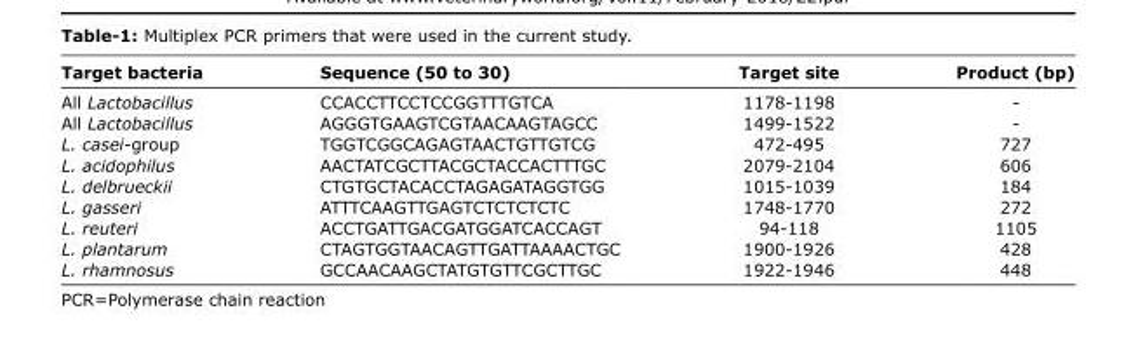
<table><thead><tr><td>Target bacteria</td><td>Sequence (50 to 30)</td><td>Target site</td><td>Product (bp)</td></tr></thead><tbody><tr><td>All Lactobacillus</td><td>CCACCTTCCTCCGGTTTGTCA</td><td>1178-1198</td><td>-</td></tr><tr><td>All Lactobacillus</td><td>AGGGTGAAGTCGTAACAAGTAGCC</td><td>1499-1522</td><td>-</td></tr><tr><td>L. casei-group</td><td>TGGTCGGCAGAGTAACTGTTGTCG</td><td>472-495</td><td>727</td></tr><tr><td>L. acidophilus</td><td>AACTATCGCTTACGCTACCACTTTGC</td><td>2079-2104</td><td>606</td></tr><tr><td>L. delbrueckii</td><td>CTGTGCTACACCTAGAGATAGGTGG</td><td>1015-1039</td><td>184</td></tr><tr><td>L. gasseri</td><td>ATTTCAAGTTGAGTCTCTCTCTC</td><td>1748-1770</td><td>272</td></tr><tr><td>L. reuteri</td><td>ACCTGATTGACGATGGATCACCAGT</td><td>94-118</td><td>1105</td></tr><tr><td>L. plantarum</td><td>CTAGTGGTAACAGTTGATTAAAACTGC</td><td>1900-1926</td><td>428</td></tr><tr><td>L. rhamnosus</td><td>GCCAACAAGCTATGTGTTCGCTTGC</td><td>1922-1946</td><td>448</td></tr></tbody></table>